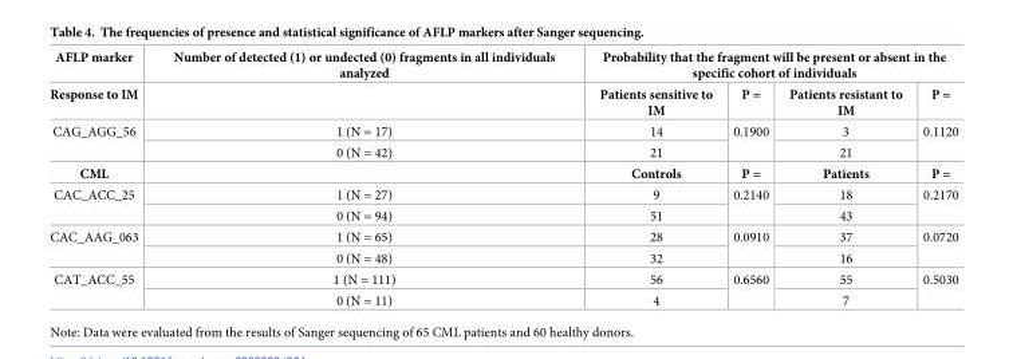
<table><thead><tr><td rowspan="2">AFLP marker Response to IM</td><td rowspan="2">Number of detected (1) or undected (0) fragments in all individuals analyzed</td><td colspan="4">Probability that the fragment will be present or absent in the specific cohort of individuals</td></tr><tr><td>Patients sensitive to IM</td><td>P =</td><td>Patients resistant to IM</td><td>P =</td></tr></thead><tbody><tr><td rowspan="2">CAG_AGG_56</td><td>1 (N = 17)</td><td>14</td><td rowspan="2">0.1900</td><td>3</td><td rowspan="2">0.1120</td></tr><tr><td>0 (N = 42)</td><td>21</td><td>21</td></tr><tr><td>CML</td><td></td><td>Controls</td><td>P =</td><td>Patients</td><td>P =</td></tr><tr><td rowspan="2">CAC_ACC_25</td><td>1 (N = 27)</td><td>9</td><td rowspan="2">0.2140</td><td>18</td><td rowspan="2">0.2170</td></tr><tr><td>0 (N = 94)</td><td>51</td><td>43</td></tr><tr><td rowspan="2">CAC_AAG_063</td><td>1 (N = 65)</td><td>28</td><td rowspan="2">0.0910</td><td>37</td><td rowspan="2">0.0720</td></tr><tr><td>0 (N = 48)</td><td>32</td><td>16</td></tr><tr><td rowspan="2">CAT_ACC_55</td><td>1 (N = 111)</td><td>56</td><td rowspan="2">0.6560</td><td>55</td><td rowspan="2">0.5030</td></tr><tr><td>0 (N = 11)</td><td>4</td><td>7</td></tr></tbody></table>